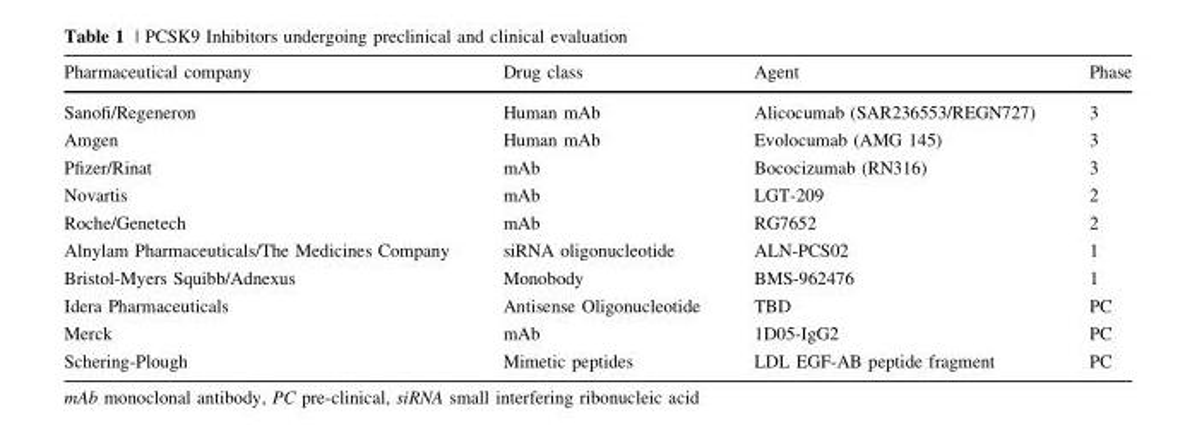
<table><thead><tr><td>Pharmaceutical company</td><td>Drug class</td><td>Agent</td><td>Phase</td></tr></thead><tbody><tr><td>Sanofi/Regeneron</td><td>Human mAb</td><td>Alicocumab (SAR236553/REGN727)</td><td>3</td></tr><tr><td>Amgen</td><td>Human mAb</td><td>Evolocumab (AMG 145)</td><td>3</td></tr><tr><td>Pfizer/Rinat</td><td>mAb</td><td>Bococizumab (RN316)</td><td>3</td></tr><tr><td>Novartis</td><td>mAb</td><td>LGT-209</td><td>2</td></tr><tr><td>Roche/Genetech</td><td>mAb</td><td>RG7652</td><td>2</td></tr><tr><td>Alnylam Pharmaceuticals/The Medicines Company</td><td>siRNA oligonucleotide</td><td>ALN-PCS02</td><td>1</td></tr><tr><td>Bristol-Myers Squibb/Adnexus</td><td>Monobody</td><td>BMS-962476</td><td>1</td></tr><tr><td>Idera Pharmaceuticals</td><td>Antisense Oligonucleotide</td><td>TBD</td><td>PC</td></tr><tr><td>Merck</td><td>mAb</td><td>1D05-IgG2</td><td>PC</td></tr><tr><td>Schering-Plough</td><td>Mimetic peptides</td><td>LDL EGF-AB peptide fragment</td><td>PC</td></tr></tbody></table>